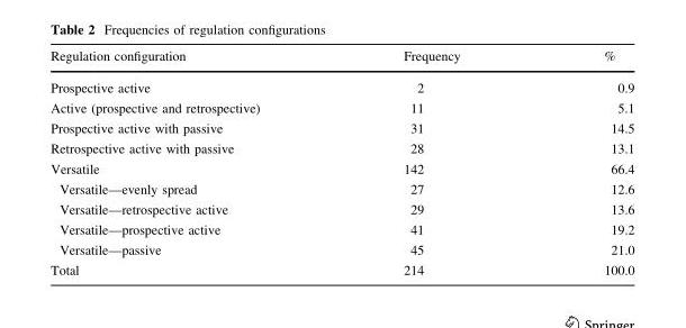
<table><thead><tr><td>Regulation configuration</td><td>Frequency</td><td>%</td></tr></thead><tbody><tr><td>Prospective active</td><td>2</td><td>0.9</td></tr><tr><td>Active (prospective and retrospective)</td><td>11</td><td>5.1</td></tr><tr><td>Prospective active with passive</td><td>31</td><td>14.5</td></tr><tr><td>Retrospective active with passive</td><td>28</td><td>13.1</td></tr><tr><td>Versatile</td><td>142</td><td>66.4</td></tr><tr><td>Versatile—evenly spread</td><td>27</td><td>12.6</td></tr><tr><td>Versatile—retrospective active</td><td>29</td><td>13.6</td></tr><tr><td>Versatile—prospective active</td><td>41</td><td>19.2</td></tr><tr><td>Versatile—passive</td><td>45</td><td>21.0</td></tr><tr><td>Total</td><td>214</td><td>100.0</td></tr></tbody></table>